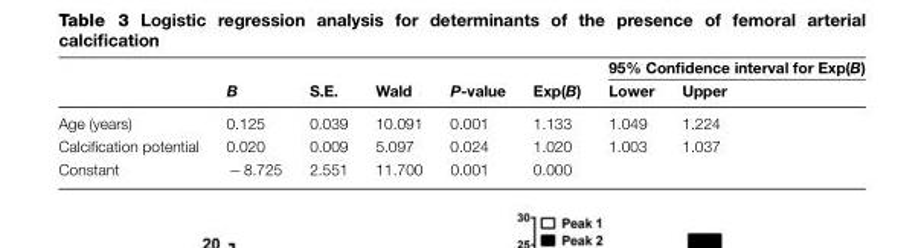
<table><thead><tr><td rowspan="2"></td><td rowspan="2">B</td><td rowspan="2">S.E.</td><td rowspan="2">Wald</td><td rowspan="2">P-value</td><td rowspan="2">Exp(B)</td><td colspan="2">95% Confidence interval for Exp(B)</td></tr><tr><td>Lower</td><td>Upper</td></tr></thead><tbody><tr><td>Age (years)</td><td>0.125</td><td>0.039</td><td>10.091</td><td>0.001</td><td>1.133</td><td>1.049</td><td>1.224</td></tr><tr><td>Calcification potential</td><td>0.020</td><td>0.009</td><td>5.097</td><td>0.024</td><td>1.020</td><td>1.003</td><td>1.037</td></tr><tr><td>Constant</td><td>− 8.725</td><td>2.551</td><td>11.700</td><td>0.001</td><td>0.000</td><td></td><td></td></tr></tbody></table>